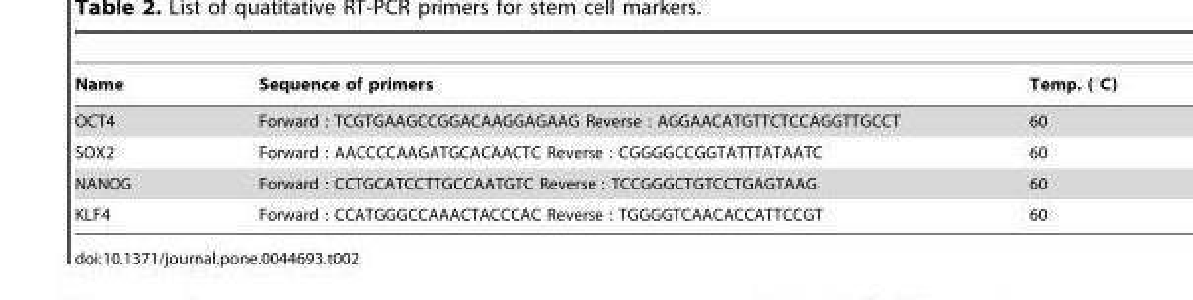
<table><thead><tr><td>Name</td><td>Sequence of primers</td><td>Temp. (°C)</td></tr></thead><tbody><tr><td>OCT4</td><td>Forward : TCGTGAAGCCGGACAAGGAGAAG Reverse : AGGAACATGTTCTCCAGGTTGCCT</td><td>60</td></tr><tr><td>SOX2</td><td>Forward : AACCCCAAGATGCACAACTC Reverse : CGGGGCCGGTATTTATAATC</td><td>60</td></tr><tr><td>NANOG</td><td>Forward : CCTGCATCCTTGCCAATGTC Reverse : TCCGGGCTGTCCTGAGTAAG</td><td>60</td></tr><tr><td>KLF4</td><td>Forward : CCATGGGCCAAACTACCCAC Reverse : TGGGGTCAACACCATTCCGT</td><td>60</td></tr></tbody></table>